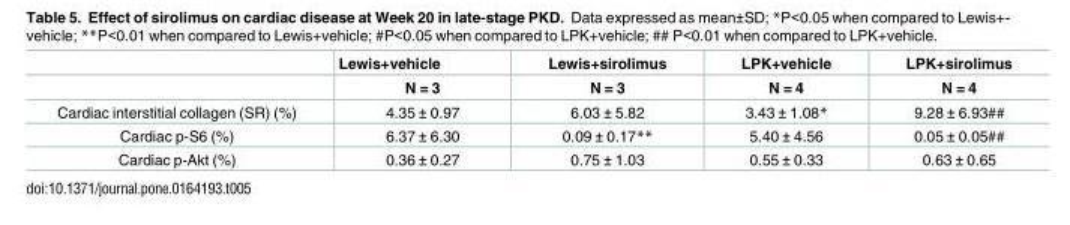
<table><thead><tr><td rowspan="2"></td><td rowspan="2">Lewis+vehicle N = 3</td><td rowspan="2">Lewis+sirolimus N = 3</td><td rowspan="2">LPK+vehicle N = 4</td><td rowspan="2">LPK+sirolimus N = 4</td></tr><tr></tr></thead><tbody><tr><td>Cardiac interstitial collagen (SR) (%)</td><td>4.35 ± 0.97</td><td>6.03 ± 5.82</td><td>3.43 ± 1.08*</td><td>9.28 ± 6.93##</td></tr><tr><td>Cardiac p-S6 (%)</td><td>6.37 ± 6.30</td><td>0.09 ± 0.17**</td><td>5.40 ± 4.56</td><td>0.05 ± 0.05##</td></tr><tr><td>Cardiac p-Akt (%)</td><td>0.36 ± 0.27</td><td>0.75 ± 1.03</td><td>0.55 ± 0.33</td><td>0.63 ± 0.65</td></tr></tbody></table>